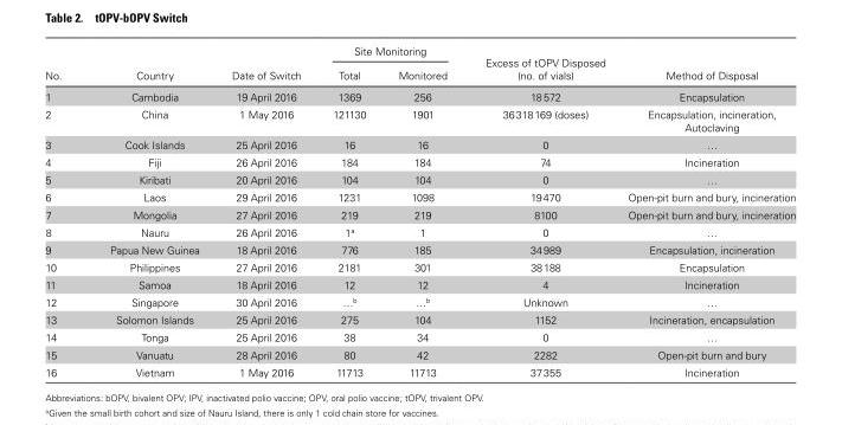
<table><thead><tr><td rowspan="2">No.</td><td rowspan="2">Country</td><td rowspan="2">Date of Switch</td><td colspan="2">Site Monitoring</td><td rowspan="2">Excess of tOPV Disposed (no. of vials)</td><td rowspan="2">Method of Disposal</td></tr><tr><td>Total</td><td>Monitored</td></tr></thead><tbody><tr><td>1</td><td>Cambodia</td><td>19 April 2016</td><td>1369</td><td>256</td><td>18 572</td><td>Encapsulation</td></tr><tr><td>2</td><td>China</td><td>1 May 2016</td><td>121130</td><td>1901</td><td>36 318 169 (doses)</td><td>Encapsulation, incineration, Autoclaving</td></tr><tr><td>3</td><td>Cook Islands</td><td>25 April 2016</td><td>16</td><td>16</td><td>0</td><td>…</td></tr><tr><td>4</td><td>Fiji</td><td>26 April 2016</td><td>184</td><td>184</td><td>74</td><td>Incineration</td></tr><tr><td>5</td><td>Kiribati</td><td>20 April 2016</td><td>104</td><td>104</td><td>0</td><td>…</td></tr><tr><td>6</td><td>Laos</td><td>29 April 2016</td><td>1231</td><td>1098</td><td>19 470</td><td>Open-pit burn and bury, incineration</td></tr><tr><td>7</td><td>Mongolia</td><td>27 April 2016</td><td>219</td><td>219</td><td>8100</td><td>Open-pit burn and bury, incineration</td></tr><tr><td>8</td><td>Nauru</td><td>26 April 2016</td><td>1<sup>a</sup></td><td>1</td><td>0</td><td>…</td></tr><tr><td>9</td><td>Papua New Guinea</td><td>18 April 2016</td><td>776</td><td>185</td><td>34 989</td><td>Encapsulation, incineration</td></tr><tr><td>10</td><td>Philippines</td><td>27 April 2016</td><td>2181</td><td>301</td><td>38 188</td><td>Encapsulation</td></tr><tr><td>11</td><td>Samoa</td><td>18 April 2016</td><td>12</td><td>12</td><td>4</td><td>Incineration</td></tr><tr><td>12</td><td>Singapore</td><td>30 April 2016</td><td>…<sup>b</sup></td><td>…<sup>b</sup></td><td>Unknown</td><td>…</td></tr><tr><td>13</td><td>Solomon Islands</td><td>25 April 2016</td><td>275</td><td>104</td><td>1152</td><td>Incineration, encapsulation</td></tr><tr><td>14</td><td>Tonga</td><td>25 April 2016</td><td>38</td><td>34</td><td>0</td><td>…</td></tr><tr><td>15</td><td>Vanuatu</td><td>28 April 2016</td><td>80</td><td>42</td><td>2282</td><td>Open-pit burn and bury</td></tr><tr><td>16</td><td>Vietnam</td><td>1 May 2016</td><td>11713</td><td>11713</td><td>37 355</td><td>Incineration</td></tr></tbody></table>